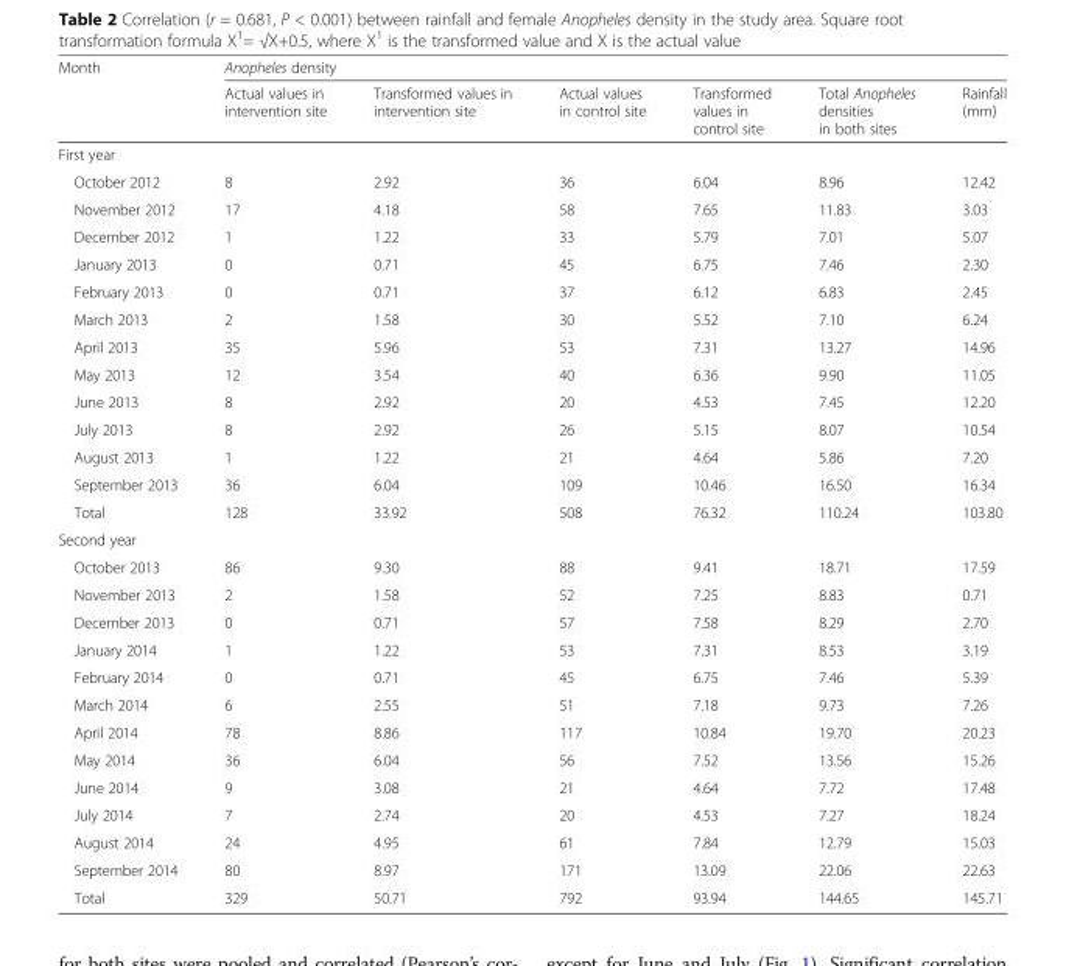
<table><thead><tr><td rowspan="2">Month</td><td colspan="6">Anopheles density</td></tr><tr><td>Actual values in intervention site</td><td>Transformed values in intervention site</td><td>Actual values in control site</td><td>Transformed values in control site</td><td>Total Anopheles densities in both sites</td><td>Rainfall (mm)</td></tr></thead><tbody><tr><td colspan="7">First year</td></tr><tr><td>October 2012</td><td>8</td><td>2.92</td><td>36</td><td>6.04</td><td>8.96</td><td>12.42</td></tr><tr><td>November 2012</td><td>17</td><td>4.18</td><td>58</td><td>7.65</td><td>11.83</td><td>3.03</td></tr><tr><td>December 2012</td><td>1</td><td>1.22</td><td>33</td><td>5.79</td><td>7.01</td><td>5.07</td></tr><tr><td>January 2013</td><td>0</td><td>0.71</td><td>45</td><td>6.75</td><td>7.46</td><td>2.30</td></tr><tr><td>February 2013</td><td>0</td><td>0.71</td><td>37</td><td>6.12</td><td>6.83</td><td>2.45</td></tr><tr><td>March 2013</td><td>2</td><td>1.58</td><td>30</td><td>5.52</td><td>7.10</td><td>6.24</td></tr><tr><td>April 2013</td><td>35</td><td>5.96</td><td>53</td><td>7.31</td><td>13.27</td><td>14.96</td></tr><tr><td>May 2013</td><td>12</td><td>3.54</td><td>40</td><td>6.36</td><td>9.90</td><td>11.05</td></tr><tr><td>June 2013</td><td>8</td><td>2.92</td><td>20</td><td>4.53</td><td>7.45</td><td>12.20</td></tr><tr><td>July 2013</td><td>8</td><td>2.92</td><td>26</td><td>5.15</td><td>8.07</td><td>10.54</td></tr><tr><td>August 2013</td><td>1</td><td>1.22</td><td>21</td><td>4.64</td><td>5.86</td><td>7.20</td></tr><tr><td>September 2013</td><td>36</td><td>6.04</td><td>109</td><td>10.46</td><td>16.50</td><td>16.34</td></tr><tr><td>Total</td><td>128</td><td>33.92</td><td>508</td><td>76.32</td><td>110.24</td><td>103.80</td></tr><tr><td colspan="7">Second year</td></tr><tr><td>October 2013</td><td>86</td><td>9.30</td><td>88</td><td>9.41</td><td>18.71</td><td>17.59</td></tr><tr><td>November 2013</td><td>2</td><td>1.58</td><td>52</td><td>7.25</td><td>8.83</td><td>0.71</td></tr><tr><td>December 2013</td><td>0</td><td>0.71</td><td>57</td><td>7.58</td><td>8.29</td><td>2.70</td></tr><tr><td>January 2014</td><td>1</td><td>1.22</td><td>53</td><td>7.31</td><td>8.53</td><td>3.19</td></tr><tr><td>February 2014</td><td>0</td><td>0.71</td><td>45</td><td>6.75</td><td>7.46</td><td>5.39</td></tr><tr><td>March 2014</td><td>6</td><td>2.55</td><td>51</td><td>7.18</td><td>9.73</td><td>7.26</td></tr><tr><td>April 2014</td><td>78</td><td>8.86</td><td>117</td><td>10.84</td><td>19.70</td><td>20.23</td></tr><tr><td>May 2014</td><td>36</td><td>6.04</td><td>56</td><td>7.52</td><td>13.56</td><td>15.26</td></tr><tr><td>June 2014</td><td>9</td><td>3.08</td><td>21</td><td>4.64</td><td>7.72</td><td>17.48</td></tr><tr><td>July 2014</td><td>7</td><td>2.74</td><td>20</td><td>4.53</td><td>7.27</td><td>18.24</td></tr><tr><td>August 2014</td><td>24</td><td>4.95</td><td>61</td><td>7.84</td><td>12.79</td><td>15.03</td></tr><tr><td>September 2014</td><td>80</td><td>8.97</td><td>171</td><td>13.09</td><td>22.06</td><td>22.63</td></tr><tr><td>Total</td><td>329</td><td>50.71</td><td>792</td><td>93.94</td><td>144.65</td><td>145.71</td></tr></tbody></table>